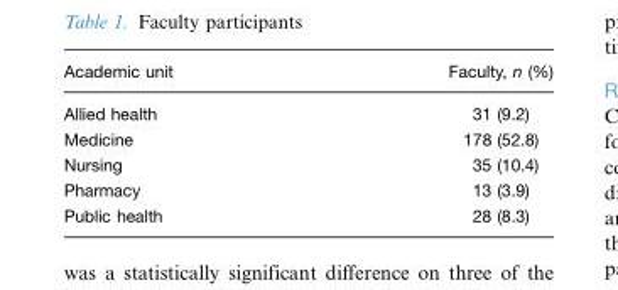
<table><thead><tr><td>Academic unit</td><td>Faculty, n (%)</td></tr></thead><tbody><tr><td>Allied health</td><td>31 (9.2)</td></tr><tr><td>Medicine</td><td>178 (52.8)</td></tr><tr><td>Nursing</td><td>35 (10.4)</td></tr><tr><td>Pharmacy</td><td>13 (3.9)</td></tr><tr><td>Public health</td><td>28 (8.3)</td></tr></tbody></table>